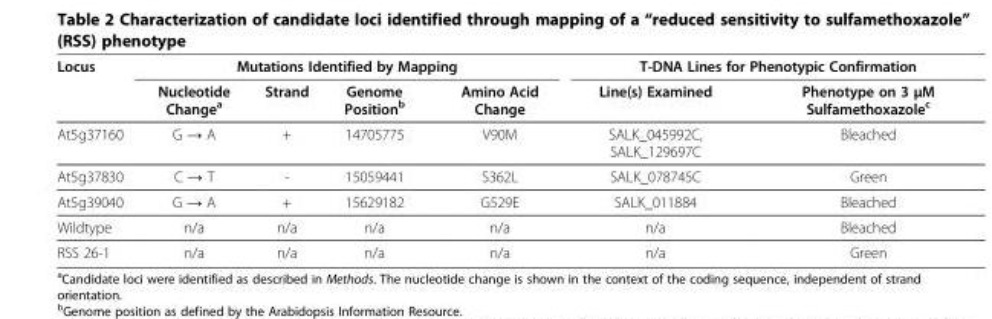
<table><thead><tr><td rowspan="2">Locus</td><td colspan="4">Mutations Identified by Mapping</td><td colspan="2">T-DNA Lines for Phenotypic Confirmation</td></tr><tr><td>Nucleotide Change<sup>a</sup></td><td>Strand</td><td>Genome Position<sup>b</sup></td><td>Amino Acid Change</td><td>Line(s) Examined</td><td>Phenotype on 3 μM Sulfamethoxazole<sup>c</sup></td></tr></thead><tbody><tr><td>At5g37160</td><td>G → A</td><td>+</td><td>14705775</td><td>V90M</td><td>SALK_045992C, SALK_129697C</td><td>Bleached</td></tr><tr><td>At5g37830</td><td>C → T</td><td>-</td><td>15059441</td><td>S362L</td><td>SALK_078745C</td><td>Green</td></tr><tr><td>At5g39040</td><td>G → A</td><td>+</td><td>15629182</td><td>G529E</td><td>SALK_011884</td><td>Bleached</td></tr><tr><td>Wildtype</td><td>n/a</td><td>n/a</td><td>n/a</td><td>n/a</td><td>n/a</td><td>Bleached</td></tr><tr><td>RSS 26-1</td><td>n/a</td><td>n/a</td><td>n/a</td><td>n/a</td><td>n/a</td><td>Green</td></tr></tbody></table>